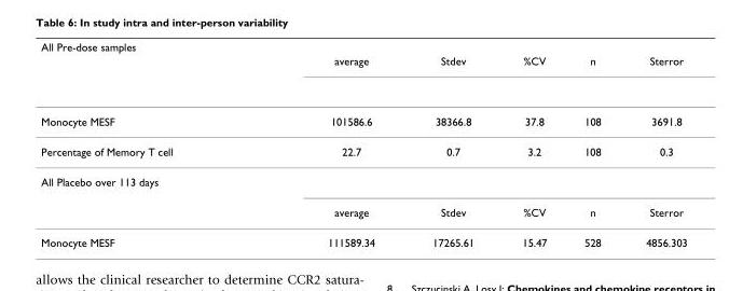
<table><thead><tr><td rowspan="2">All Pre-dose samples</td><td rowspan="2">average</td><td rowspan="2">Stdev</td><td rowspan="2">%CV</td><td rowspan="2">n</td><td rowspan="2">Sterror</td></tr><tr></tr></thead><tbody><tr><td>Monocyte MESF</td><td>101586.6</td><td>38366.8</td><td>37.8</td><td>108</td><td>3691.8</td></tr><tr><td>Percentage of Memory T cell</td><td>22.7</td><td>0.7</td><td>3.2</td><td>108</td><td>0.3</td></tr><tr><td colspan="6">All Placebo over 113 days</td></tr><tr><td></td><td>average</td><td>Stdev</td><td>%CV</td><td>n</td><td>Sterror</td></tr><tr><td>Monocyte MESF</td><td>111589.34</td><td>17265.61</td><td>15.47</td><td>528</td><td>4856.303</td></tr></tbody></table>